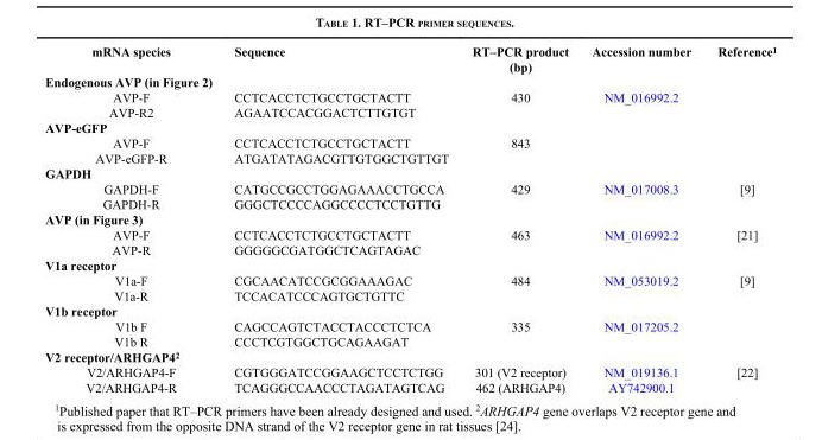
<table><thead><tr><td>mRNA species</td><td>Sequence</td><td>RT–PCR product (bp)</td><td>Accession number</td><td>Reference<sup>1</sup></td></tr></thead><tbody><tr><td colspan="5">Endogenous AVP (in Figure 2)</td></tr><tr><td>AVP-F</td><td>CCTCACCTCTGCCTGCTACTT</td><td>430</td><td>NM_016992.2</td><td></td></tr><tr><td>AVP-R2</td><td>AGAATCCACGGACTCTTGTGT</td><td></td><td></td><td></td></tr><tr><td colspan="5">AVP-eGFP</td></tr><tr><td>AVP-F</td><td>CCTCACCTCTGCCTGCTACTT</td><td>843</td><td></td><td></td></tr><tr><td>AVP-eGFP-R</td><td>ATGATATAGACGTTGTGGCTGTTGT</td><td></td><td></td><td></td></tr><tr><td colspan="5">GAPDH</td></tr><tr><td>GAPDH-F</td><td>CATGCCGCCTGGAGAAACCTGCCA</td><td>429</td><td>NM_017008.3</td><td>[9]</td></tr><tr><td>GAPDH-R</td><td>GGGCTCCCCAGGCCCCTCCTGTTG</td><td></td><td></td><td></td></tr><tr><td colspan="5">AVP (in Figure 3)</td></tr><tr><td>AVP-F</td><td>CCTCACCTCTGCCTGCTACTT</td><td>463</td><td>NM_016992.2</td><td>[21]</td></tr><tr><td>AVP-R</td><td>GGGGGCGATGGCTCAGTAGAC</td><td></td><td></td><td></td></tr><tr><td colspan="5">V1a receptor</td></tr><tr><td>V1a-F</td><td>CGCAACATCCGCGGAAAGAC</td><td>484</td><td>NM_053019.2</td><td>[9]</td></tr><tr><td>V1a-R</td><td>TCCACATCCCAGTGCTGTTC</td><td></td><td></td><td></td></tr><tr><td colspan="5">V1b receptor</td></tr><tr><td>V1b F</td><td>CAGCCAGTCTACCTACCCTCTCA</td><td>335</td><td>NM_017205.2</td><td></td></tr><tr><td>V1b R</td><td>CCCTCGTGGCTGCAGAAGAT</td><td></td><td></td><td></td></tr><tr><td colspan="5">V2 receptor/ARHGAP4<sup>2</sup></td></tr><tr><td>V2/ARHGAP4-F</td><td>CGTGGGATCCGGAAGCTCCTCTGG</td><td>301 (V2 receptor)</td><td>NM_019136.1</td><td>[22]</td></tr><tr><td>V2/ARHGAP4-R</td><td>TCAGGGCCAACCCTAGATAGTCAG</td><td>462 (ARHGAP4)</td><td>AY742900.1</td><td></td></tr></tbody></table>